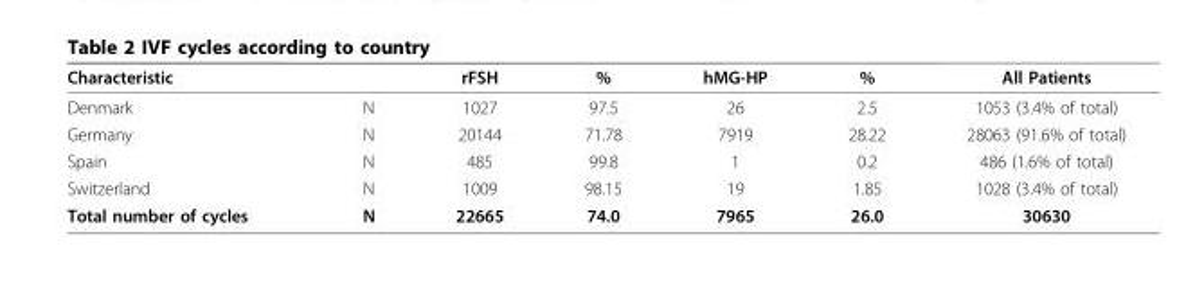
<table><thead><tr><td>Characteristic</td><td></td><td>rFSH</td><td>%</td><td>hMG-HP</td><td>%</td><td>All Patients</td></tr></thead><tbody><tr><td>Denmark</td><td>N</td><td>1027</td><td>97.5</td><td>26</td><td>2.5</td><td>1053 (3.4% of total)</td></tr><tr><td>Germany</td><td>N</td><td>20144</td><td>71.78</td><td>7919</td><td>28.22</td><td>28063 (91.6% of total)</td></tr><tr><td>Spain</td><td>N</td><td>485</td><td>99.8</td><td>1</td><td>0.2</td><td>486 (1.6% of total)</td></tr><tr><td>Switzerland</td><td>N</td><td>1009</td><td>98.15</td><td>19</td><td>1.85</td><td>1028 (3.4% of total)</td></tr><tr><td>Total number of cycles</td><td>N</td><td>22665</td><td>74.0</td><td>7965</td><td>26.0</td><td>30630</td></tr></tbody></table>